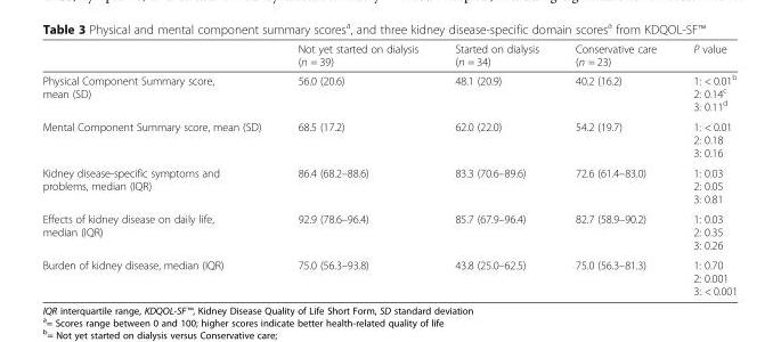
<table><thead><tr><td></td><td>Not yet started on dialysis (n = 39)</td><td>Started on dialysis (n = 34)</td><td>Conservative care (n = 23)</td><td>P value</td></tr></thead><tbody><tr><td>Physical Component Summary score, mean (SD)</td><td>56.0 (20.6)</td><td>48.1 (20.9)</td><td>40.2 (16.2)</td><td>1: &lt; 0.01<sup>b</sup> 2: 0.14<sup>c</sup> 3: 0.11<sup>d</sup></td></tr><tr><td>Mental Component Summary score, mean (SD)</td><td>68.5 (17.2)</td><td>62.0 (22.0)</td><td>54.2 (19.7)</td><td>1: &lt; 0.01 2: 0.18 3: 0.16</td></tr><tr><td>Kidney disease-specific symptoms and problems, median (IQR)</td><td>86.4 (68.2–88.6)</td><td>83.3 (70.6–89.6)</td><td>72.6 (61.4–83.0)</td><td>1: 0.03 2: 0.05 3: 0.81</td></tr><tr><td>Effects of kidney disease on daily life, median (IQR)</td><td>92.9 (78.6–96.4)</td><td>85.7 (67.9–96.4)</td><td>82.7 (58.9–90.2)</td><td>1: 0.03 2: 0.35 3: 0.26</td></tr><tr><td>Burden of kidney disease, median (IQR)</td><td>75.0 (56.3–93.8)</td><td>43.8 (25.0–62.5)</td><td>75.0 (56.3–81.3)</td><td>1: 0.70 2: 0.001 3: &lt; 0.001</td></tr></tbody></table>